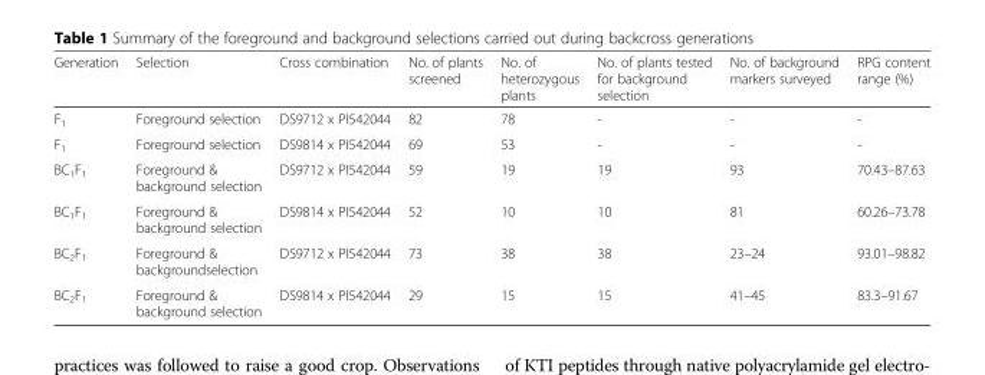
<table><thead><tr><td>Generation</td><td>Selection</td><td>Cross combination</td><td>No. of plants screened</td><td>No. of heterozygous plants</td><td>No. of plants tested for background selection</td><td>No. of background markers surveyed</td><td>RPG content range (%)</td></tr></thead><tbody><tr><td>F<sub>1</sub></td><td>Foreground selection</td><td>DS9712 x PI542044</td><td>82</td><td>78</td><td>-</td><td>-</td><td>-</td></tr><tr><td>F<sub>1</sub></td><td>Foreground selection</td><td>DS9814 x PI542044</td><td>69</td><td>53</td><td>-</td><td>-</td><td>-</td></tr><tr><td>BC<sub>1</sub>F<sub>1</sub></td><td>Foreground &amp; background selection</td><td>DS9712 x PI542044</td><td>59</td><td>19</td><td>19</td><td>93</td><td>70.43–87.63</td></tr><tr><td>BC<sub>1</sub>F<sub>1</sub></td><td>Foreground &amp; background selection</td><td>DS9814 x PI542044</td><td>52</td><td>10</td><td>10</td><td>81</td><td>60.26–73.78</td></tr><tr><td>BC<sub>2</sub>F<sub>1</sub></td><td>Foreground &amp; backgroundselection</td><td>DS9712 x PI542044</td><td>73</td><td>38</td><td>38</td><td>23–24</td><td>93.01–98.82</td></tr><tr><td>BC<sub>2</sub>F<sub>1</sub></td><td>Foreground &amp; background selection</td><td>DS9814 x PI542044</td><td>29</td><td>15</td><td>15</td><td>41–45</td><td>83.3–91.67</td></tr></tbody></table>